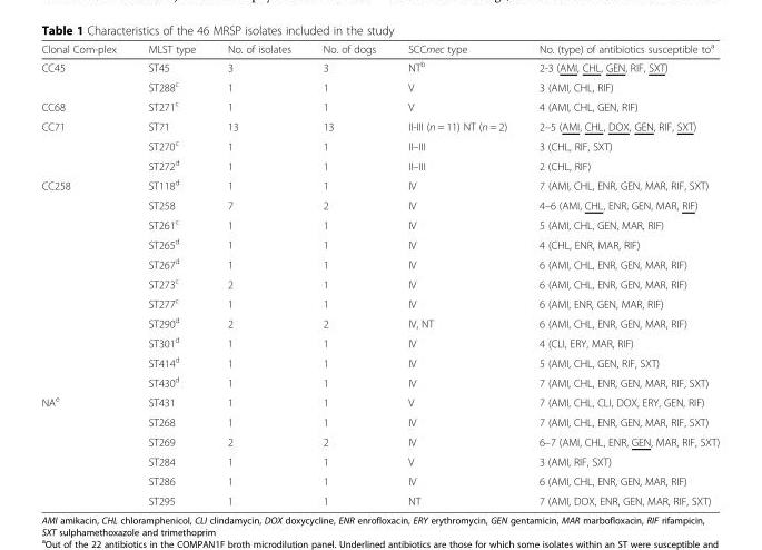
<table><thead><tr><td>Clonal Com-plex</td><td>MLST type</td><td>No. of isolates</td><td>No. of dogs</td><td>SCCmec type</td><td>No. (type) of antibiotics susceptible to<sup>a</sup></td></tr></thead><tbody><tr><td rowspan="2">CC45</td><td>ST45</td><td>3</td><td>3</td><td>NT<sup>b</sup></td><td>2-3 (AMI, CHL, GEN, RIF, SXT)</td></tr><tr><td>ST288<sup>c</sup></td><td>1</td><td>1</td><td>V</td><td>3 (AMI, CHL, RIF)</td></tr><tr><td>CC68</td><td>ST271<sup>c</sup></td><td>1</td><td>1</td><td>V</td><td>4 (AMI, CHL, GEN, RIF)</td></tr><tr><td rowspan="3">CC71</td><td>ST71</td><td>13</td><td>13</td><td>II-III (n = 11) NT (n = 2)</td><td>2–5 (AMI, CHL, DOX, GEN, RIF, SXT)</td></tr><tr><td>ST270<sup>c</sup></td><td>1</td><td>1</td><td>II–III</td><td>3 (CHL, RIF, SXT)</td></tr><tr><td>ST272<sup>d</sup></td><td>1</td><td>1</td><td>II–III</td><td>2 (CHL, RIF)</td></tr><tr><td rowspan="11">CC258</td><td>ST118<sup>d</sup></td><td>1</td><td>1</td><td>IV</td><td>7 (AMI, CHL, ENR, GEN, MAR, RIF, SXT)</td></tr><tr><td>ST258</td><td>7</td><td>2</td><td>IV</td><td>4–6 (AMI, CHL, ENR, GEN, MAR, RIF)</td></tr><tr><td>ST261<sup>c</sup></td><td>1</td><td>1</td><td>IV</td><td>5 (AMI, CHL, GEN, MAR, RIF)</td></tr><tr><td>ST265<sup>d</sup></td><td>1</td><td>1</td><td>IV</td><td>4 (CHL, ENR, MAR, RIF)</td></tr><tr><td>ST267<sup>d</sup></td><td>1</td><td>1</td><td>IV</td><td>6 (AMI, CHL, ENR, GEN, MAR, RIF)</td></tr><tr><td>ST273<sup>c</sup></td><td>2</td><td>1</td><td>IV</td><td>6 (AMI, CHL, ENR, GEN, MAR, RIF)</td></tr><tr><td>ST277<sup>c</sup></td><td>1</td><td>1</td><td>IV</td><td>6 (AMI, ENR, GEN, MAR, RIF)</td></tr><tr><td>ST290<sup>d</sup></td><td>2</td><td>2</td><td>IV, NT</td><td>6 (AMI, CHL, ENR, GEN, MAR, RIF)</td></tr><tr><td>ST301<sup>d</sup></td><td>1</td><td>1</td><td>IV</td><td>4 (CLI, ERY, MAR, RIF)</td></tr><tr><td>ST414<sup>d</sup></td><td>1</td><td>1</td><td>IV</td><td>5 (AMI, CHL, GEN, RIF, SXT)</td></tr><tr><td>ST430<sup>d</sup></td><td>1</td><td>1</td><td>IV</td><td>7 (AMI, CHL, ENR, GEN, MAR, RIF, SXT)</td></tr><tr><td rowspan="6">NA<sup>e</sup></td><td>ST431</td><td>1</td><td>1</td><td>V</td><td>7 (AMI, CHL, CLI, DOX, ERY, GEN, RIF)</td></tr><tr><td>ST268</td><td>1</td><td>1</td><td>IV</td><td>7 (AMI, CHL, ENR, GEN, MAR, RIF, SXT)</td></tr><tr><td>ST269</td><td>2</td><td>2</td><td>IV</td><td>6–7 (AMI, CHL, ENR, GEN, MAR, RIF, SXT)</td></tr><tr><td>ST284</td><td>1</td><td>1</td><td>V</td><td>3 (AMI, RIF, SXT)</td></tr><tr><td>ST286</td><td>1</td><td>1</td><td>IV</td><td>6 (AMI, CHL, ENR, GEN, MAR, RIF)</td></tr><tr><td>ST295</td><td>1</td><td>1</td><td>NT</td><td>7 (AMI, DOX, ENR, GEN, MAR, RIF, SXT)</td></tr></tbody></table>